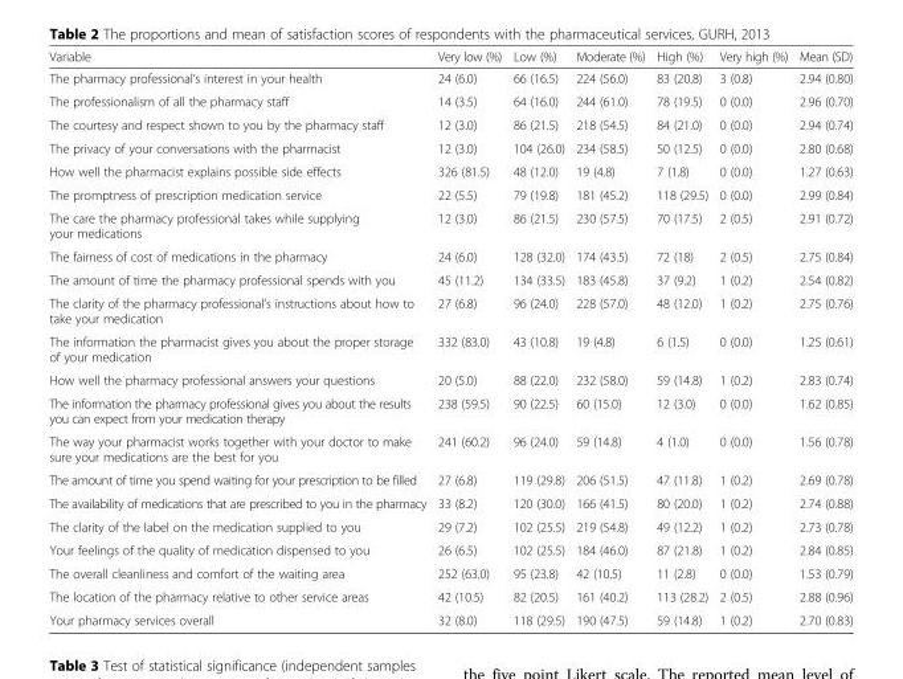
<table><thead><tr><td>Variable</td><td>Very low (%)</td><td>Low (%)</td><td>Moderate (%)</td><td>High (%)</td><td>Very high (%)</td><td>Mean (SD)</td></tr></thead><tbody><tr><td>The pharmacy professional’s interest in your health</td><td>24 (6.0)</td><td>66 (16.5)</td><td>224 (56.0)</td><td>83 (20.8)</td><td>3 (0.8)</td><td>2.94 (0.80)</td></tr><tr><td>The professionalism of all the pharmacy staff</td><td>14 (3.5)</td><td>64 (16.0)</td><td>244 (61.0)</td><td>78 (19.5)</td><td>0 (0.0)</td><td>2.96 (0.70)</td></tr><tr><td>The courtesy and respect shown to you by the pharmacy staff</td><td>12 (3.0)</td><td>86 (21.5)</td><td>218 (54.5)</td><td>84 (21.0)</td><td>0 (0.0)</td><td>2.94 (0.74)</td></tr><tr><td>The privacy of your conversations with the pharmacist</td><td>12 (3.0)</td><td>104 (26.0)</td><td>234 (58.5)</td><td>50 (12.5)</td><td>0 (0.0)</td><td>2.80 (0.68)</td></tr><tr><td>How well the pharmacist explains possible side effects</td><td>326 (81.5)</td><td>48 (12.0)</td><td>19 (4.8)</td><td>7 (1.8)</td><td>0 (0.0)</td><td>1.27 (0.63)</td></tr><tr><td>The promptness of prescription medication service</td><td>22 (5.5)</td><td>79 (19.8)</td><td>181 (45.2)</td><td>118 (29.5)</td><td>0 (0.0)</td><td>2.99 (0.84)</td></tr><tr><td>The care the pharmacy professional takes while supplying your medications</td><td>12 (3.0)</td><td>86 (21.5)</td><td>230 (57.5)</td><td>70 (17.5)</td><td>2 (0.5)</td><td>2.91 (0.72)</td></tr><tr><td>The fairness of cost of medications in the pharmacy</td><td>24 (6.0)</td><td>128 (32.0)</td><td>174 (43.5)</td><td>72 (18)</td><td>2 (0.5)</td><td>2.75 (0.84)</td></tr><tr><td>The amount of time the pharmacy professional spends with you</td><td>45 (11.2)</td><td>134 (33.5)</td><td>183 (45.8)</td><td>37 (9.2)</td><td>1 (0.2)</td><td>2.54 (0.82)</td></tr><tr><td>The clarity of the pharmacy professional’s instructions about how to take your medication</td><td>27 (6.8)</td><td>96 (24.0)</td><td>228 (57.0)</td><td>48 (12.0)</td><td>1 (0.2)</td><td>2.75 (0.76)</td></tr><tr><td>The information the pharmacist gives you about the proper storage of your medication</td><td>332 (83.0)</td><td>43 (10.8)</td><td>19 (4.8)</td><td>6 (1.5)</td><td>0 (0.0)</td><td>1.25 (0.61)</td></tr><tr><td>How well the pharmacy professional answers your questions</td><td>20 (5.0)</td><td>88 (22.0)</td><td>232 (58.0)</td><td>59 (14.8)</td><td>1 (0.2)</td><td>2.83 (0.74)</td></tr><tr><td>The information the pharmacy professional gives you about the results you can expect from your medication therapy</td><td>238 (59.5)</td><td>90 (22.5)</td><td>60 (15.0)</td><td>12 (3.0)</td><td>0 (0.0)</td><td>1.62 (0.85)</td></tr><tr><td>The way your pharmacist works together with your doctor to make sure your medications are the best for you</td><td>241 (60.2)</td><td>96 (24.0)</td><td>59 (14.8)</td><td>4 (1.0)</td><td>0 (0.0)</td><td>1.56 (0.78)</td></tr><tr><td>The amount of time you spend waiting for your prescription to be filled</td><td>27 (6.8)</td><td>119 (29.8)</td><td>206 (51.5)</td><td>47 (11.8)</td><td>1 (0.2)</td><td>2.69 (0.78)</td></tr><tr><td>The availability of medications that are prescribed to you in the pharmacy</td><td>33 (8.2)</td><td>120 (30.0)</td><td>166 (41.5)</td><td>80 (20.0)</td><td>1 (0.2)</td><td>2.74 (0.88)</td></tr><tr><td>The clarity of the label on the medication supplied to you</td><td>29 (7.2)</td><td>102 (25.5)</td><td>219 (54.8)</td><td>49 (12.2)</td><td>1 (0.2)</td><td>2.73 (0.78)</td></tr><tr><td>Your feelings of the quality of medication dispensed to you</td><td>26 (6.5)</td><td>102 (25.5)</td><td>184 (46.0)</td><td>87 (21.8)</td><td>1 (0.2)</td><td>2.84 (0.85)</td></tr><tr><td>The overall cleanliness and comfort of the waiting area</td><td>252 (63.0)</td><td>95 (23.8)</td><td>42 (10.5)</td><td>11 (2.8)</td><td>0 (0.0)</td><td>1.53 (0.79)</td></tr><tr><td>The location of the pharmacy relative to other service areas</td><td>42 (10.5)</td><td>82 (20.5)</td><td>161 (40.2)</td><td>113 (28.2)</td><td>2 (0.5)</td><td>2.88 (0.96)</td></tr><tr><td>Your pharmacy services overall</td><td>32 (8.0)</td><td>118 (29.5)</td><td>190 (47.5)</td><td>59 (14.8)</td><td>1 (0.2)</td><td>2.70 (0.83)</td></tr></tbody></table>